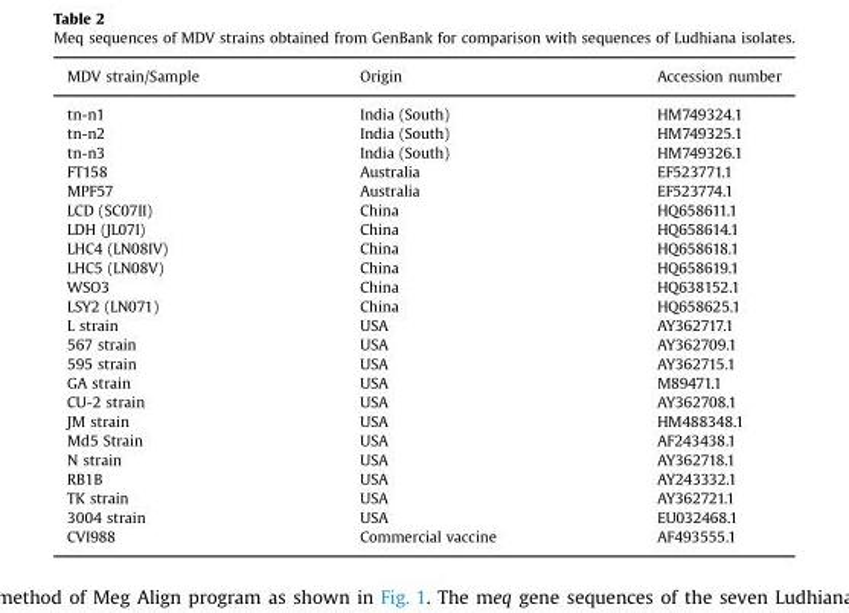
<table><thead><tr><td>MDV strain/Sample</td><td>Origin</td><td>Accession number</td></tr></thead><tbody><tr><td>tn-n1</td><td>India (South)</td><td>HM749324.1</td></tr><tr><td>tn-n2</td><td>India (South)</td><td>HM749325.1</td></tr><tr><td>tn-n3</td><td>India (South)</td><td>HM749326.1</td></tr><tr><td>FT158</td><td>Australia</td><td>EF523771.1</td></tr><tr><td>MPF57</td><td>Australia</td><td>EF523774.1</td></tr><tr><td>LCD (SC07II)</td><td>China</td><td>HQ658611.1</td></tr><tr><td>LDH (JL07I)</td><td>China</td><td>HQ658614.1</td></tr><tr><td>LHC4 (LN08IV)</td><td>China</td><td>HQ658618.1</td></tr><tr><td>LHC5 (LN08V)</td><td>China</td><td>HQ658619.1</td></tr><tr><td>WSO3</td><td>China</td><td>HQ638152.1</td></tr><tr><td>LSY2 (LN071)</td><td>China</td><td>HQ658625.1</td></tr><tr><td>L strain</td><td>USA</td><td>AY362717.1</td></tr><tr><td>567 strain</td><td>USA</td><td>AY362709.1</td></tr><tr><td>595 strain</td><td>USA</td><td>AY362715.1</td></tr><tr><td>GA strain</td><td>USA</td><td>M89471.1</td></tr><tr><td>CU-2 strain</td><td>USA</td><td>AY362708.1</td></tr><tr><td>JM strain</td><td>USA</td><td>HM488348.1</td></tr><tr><td>Md5 Strain</td><td>USA</td><td>AF243438.1</td></tr><tr><td>N strain</td><td>USA</td><td>AY362718.1</td></tr><tr><td>RB1B</td><td>USA</td><td>AY243332.1</td></tr><tr><td>TK strain</td><td>USA</td><td>AY362721.1</td></tr><tr><td>3004 strain</td><td>USA</td><td>EU032468.1</td></tr><tr><td>CVI988</td><td>Commercial vaccine</td><td>AF493555.1</td></tr></tbody></table>